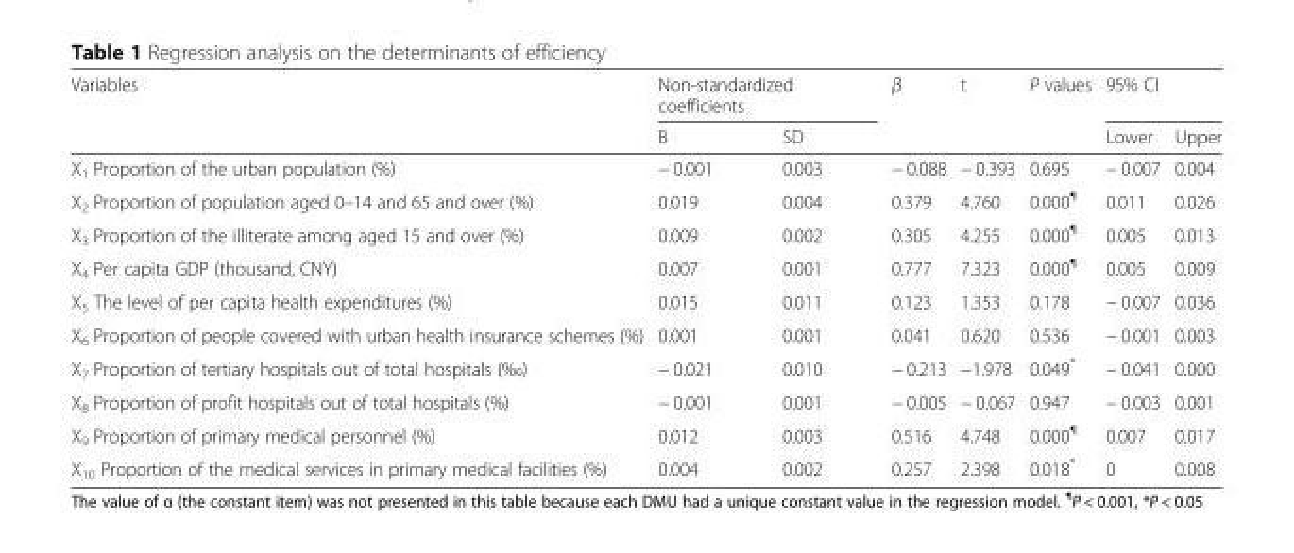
<table><thead><tr><td rowspan="2">Variables</td><td colspan="2">Non-standardized coefficients</td><td rowspan="2">β</td><td rowspan="2">t</td><td rowspan="2">P values</td><td colspan="2">95% CI</td></tr><tr><td>B</td><td>SD</td><td>Lower</td><td>Upper</td></tr></thead><tbody><tr><td>X<sub>1</sub> Proportion of the urban population (%)</td><td>− 0.001</td><td>0.003</td><td>− 0.088</td><td>− 0.393</td><td>0.695</td><td>− 0.007</td><td>0.004</td></tr><tr><td>X<sub>2</sub> Proportion of population aged 0–14 and 65 and over (%)</td><td>0.019</td><td>0.004</td><td>0.379</td><td>4.760</td><td>0.000<sup>¶</sup></td><td>0.011</td><td>0.026</td></tr><tr><td>X<sub>3</sub> Proportion of the illiterate among aged 15 and over (%)</td><td>0.009</td><td>0.002</td><td>0.305</td><td>4.255</td><td>0.000<sup>¶</sup></td><td>0.005</td><td>0.013</td></tr><tr><td>X<sub>4</sub> Per capita GDP (thousand, CNY)</td><td>0.007</td><td>0.001</td><td>0.777</td><td>7.323</td><td>0.000<sup>¶</sup></td><td>0.005</td><td>0.009</td></tr><tr><td>X<sub>5</sub> The level of per capita health expenditures (%)</td><td>0.015</td><td>0.011</td><td>0.123</td><td>1.353</td><td>0.178</td><td>− 0.007</td><td>0.036</td></tr><tr><td>X<sub>6</sub> Proportion of people covered with urban health insurance schemes (%)</td><td>0.001</td><td>0.001</td><td>0.041</td><td>0.620</td><td>0.536</td><td>− 0.001</td><td>0.003</td></tr><tr><td>X<sub>7</sub> Proportion of tertiary hospitals out of total hospitals (‰)</td><td>− 0.021</td><td>0.010</td><td>− 0.213</td><td>−1.978</td><td>0.049*</td><td>− 0.041</td><td>0.000</td></tr><tr><td>X<sub>8</sub> Proportion of profit hospitals out of total hospitals (%)</td><td>− 0.001</td><td>0.001</td><td>− 0.005</td><td>− 0.067</td><td>0.947</td><td>− 0.003</td><td>0.001</td></tr><tr><td>X<sub>9</sub> Proportion of primary medical personnel (%)</td><td>0.012</td><td>0.003</td><td>0.516</td><td>4.748</td><td>0.000<sup>¶</sup></td><td>0.007</td><td>0.017</td></tr><tr><td>X<sub>10</sub> Proportion of the medical services in primary medical facilities (%)</td><td>0.004</td><td>0.002</td><td>0.257</td><td>2.398</td><td>0.018*</td><td>0</td><td>0.008</td></tr></tbody></table>